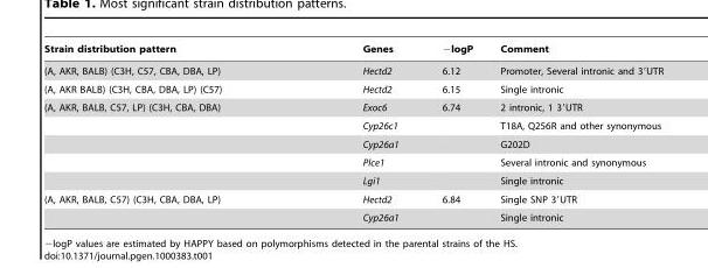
<table><thead><tr><td>Strain distribution pattern</td><td>Genes</td><td>−logP</td><td>Comment</td></tr></thead><tbody><tr><td>(A, AKR, BALB) (C3H, C57, CBA, DBA, LP)</td><td>Hectd2</td><td>6.12</td><td>Promoter, Several intronic and 3′UTR</td></tr><tr><td>(A, AKR BALB) (C3H, CBA, DBA, LP) (C57)</td><td>Hectd2</td><td>6.15</td><td>Single intronic</td></tr><tr><td rowspan="5">(A, AKR, BALB, C57, LP) (C3H, CBA, DBA)</td><td>Exoc6</td><td>6.74</td><td>2 intronic, 1 3′UTR</td></tr><tr><td>Cyp26c1</td><td></td><td>T18A, Q256R and other synonymous</td></tr><tr><td>Cyp26a1</td><td></td><td>G202D</td></tr><tr><td>Plce1</td><td></td><td>Several intronic and synonymous</td></tr><tr><td>Lgi1</td><td></td><td>Single intronic</td></tr><tr><td rowspan="2">(A, AKR, BALB, C57) (C3H, CBA, DBA, LP)</td><td>Hectd2</td><td>6.84</td><td>Single SNP 3′UTR</td></tr><tr><td>Cyp26a1</td><td></td><td>Single intronic</td></tr></tbody></table>